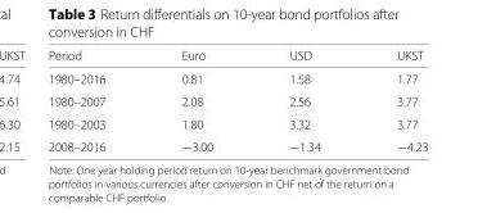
<table><thead><tr><td>Period</td><td>Euro</td><td>USD</td><td>UKST</td></tr></thead><tbody><tr><td>1980–2016</td><td>0.81</td><td>1.58</td><td>1.77</td></tr><tr><td>1980–2007</td><td>2.08</td><td>2.56</td><td>3.77</td></tr><tr><td>1980–2003</td><td>1.80</td><td>3.32</td><td>3.77</td></tr><tr><td>2008–2016</td><td>−3.00</td><td>−1.34</td><td>−4.23</td></tr></tbody></table>